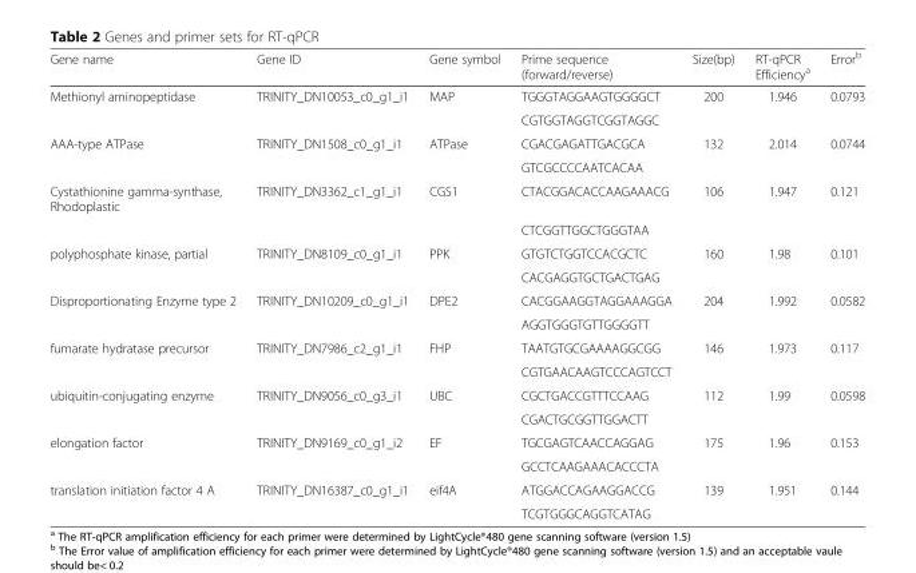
<table><thead><tr><td>Gene name</td><td>Gene ID</td><td>Gene symbol</td><td>Prime sequence (forward/reverse)</td><td>Size(bp)</td><td>RT-qPCR Efficiency<sup>a</sup></td><td>Error<sup>b</sup></td></tr></thead><tbody><tr><td rowspan="2">Methionyl aminopeptidase</td><td>TRINITY_DN10053_c0_g1_i1</td><td>MAP</td><td>TGGGTAGGAAGTGGGGCT</td><td>200</td><td>1.946</td><td>0.0793</td></tr><tr><td></td><td></td><td>CGTGGTAGGTCGGTAGGC</td><td></td><td></td><td></td></tr><tr><td rowspan="2">AAA-type ATPase</td><td>TRINITY_DN1508_c0_g1_i1</td><td>ATPase</td><td>CGACGAGATTGACGCA</td><td>132</td><td>2.014</td><td>0.0744</td></tr><tr><td></td><td></td><td>GTCGCCCCAATCACAA</td><td></td><td></td><td></td></tr><tr><td rowspan="2">Cystathionine gamma-synthase, Rhodoplastic</td><td>TRINITY_DN3362_c1_g1_i1</td><td>CGS1</td><td>CTACGGACACCAAGAAACG</td><td>106</td><td>1.947</td><td>0.121</td></tr><tr><td></td><td></td><td>CTCGGTTGGCTGGGTAA</td><td></td><td></td><td></td></tr><tr><td rowspan="2">polyphosphate kinase, partial</td><td>TRINITY_DN8109_c0_g1_i1</td><td>PPK</td><td>GTGTCTGGTCCACGCTC</td><td>160</td><td>1.98</td><td>0.101</td></tr><tr><td></td><td></td><td>CACGAGGTGCTGACTGAG</td><td></td><td></td><td></td></tr><tr><td rowspan="2">Disproportionating Enzyme type 2</td><td>TRINITY_DN10209_c0_g1_i1</td><td>DPE2</td><td>CACGGAAGGTAGGAAAGGA</td><td>204</td><td>1.992</td><td>0.0582</td></tr><tr><td></td><td></td><td>AGGTGGGTGTTGGGGTT</td><td></td><td></td><td></td></tr><tr><td rowspan="2">fumarate hydratase precursor</td><td>TRINITY_DN7986_c2_g1_i1</td><td>FHP</td><td>TAATGTGCGAAAAGGCGG</td><td>146</td><td>1.973</td><td>0.117</td></tr><tr><td></td><td></td><td>CGTGAACAAGTCCCAGTCCT</td><td></td><td></td><td></td></tr><tr><td rowspan="2">ubiquitin-conjugating enzyme</td><td>TRINITY_DN9056_c0_g3_i1</td><td>UBC</td><td>CGCTGACCGTTTCCAAG</td><td>112</td><td>1.99</td><td>0.0598</td></tr><tr><td></td><td></td><td>CGACTGCGGTTGGACTT</td><td></td><td></td><td></td></tr><tr><td rowspan="2">elongation factor</td><td>TRINITY_DN9169_c0_g1_i2</td><td>EF</td><td>TGCGAGTCAACCAGGAG</td><td>175</td><td>1.96</td><td>0.153</td></tr><tr><td></td><td></td><td>GCCTCAAGAAACACCCTA</td><td></td><td></td><td></td></tr><tr><td rowspan="2">translation initiation factor 4 A</td><td>TRINITY_DN16387_c0_g1_i1</td><td>eif4A</td><td>ATGGACCAGAAGGACCG</td><td>139</td><td>1.951</td><td>0.144</td></tr><tr><td></td><td></td><td>TCGTGGGCAGGTCATAG</td><td></td><td></td><td></td></tr></tbody></table>